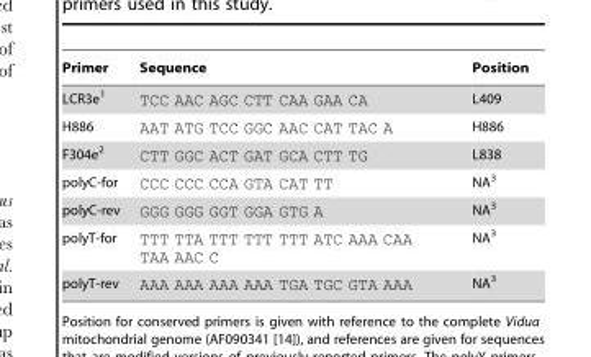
<table><thead><tr><td>Primer</td><td>Sequence</td><td>Position</td></tr></thead><tbody><tr><td>LCR3e<sup>1</sup></td><td>TCC AAC AGC CTT CAA GAA CA</td><td>L409</td></tr><tr><td>H886</td><td>AAT ATG TCC GGC AAC CAT TAC A</td><td>H886</td></tr><tr><td>F304e<sup>2</sup></td><td>CTT GGC ACT GAT GCA CTT TG</td><td>L838</td></tr><tr><td>polyC-for</td><td>CCC CCC CCA GTA CAT TT</td><td>NA<sup>3</sup></td></tr><tr><td>polyC-rev</td><td>GGG GGG GGT GGA GTG A</td><td>NA<sup>3</sup></td></tr><tr><td>polyT-for</td><td>TTT TTA TTT TTT TTT ATC AAA CAA TAA AAC C</td><td>NA<sup>3</sup></td></tr><tr><td>polyT-rev</td><td>AAA AAA AAA AAA TGA TGC GTA AAA</td><td>NA<sup>3</sup></td></tr></tbody></table>